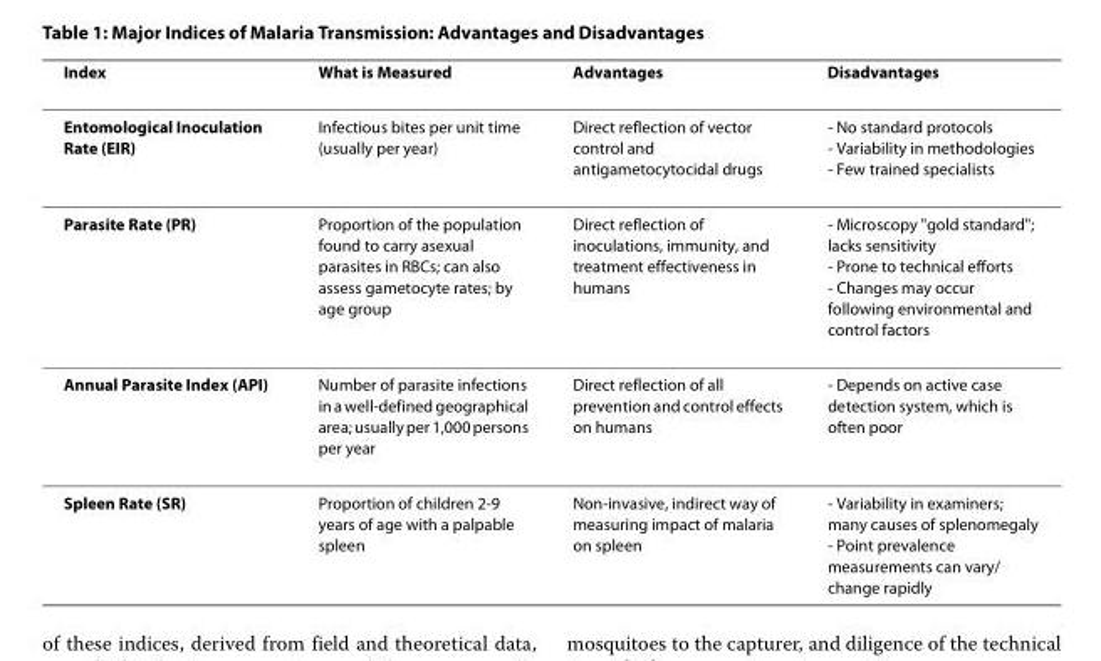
<table><thead><tr><td>Index</td><td>What is Measured</td><td>Advantages</td><td>Disadvantages</td></tr></thead><tbody><tr><td>Entomological Inoculation Rate (EIR)</td><td>Infectious bites per unit time (usually per year)</td><td>Direct reflection of vector control and antigametocytocidal drugs</td><td>- No standard protocols - Variability in methodologies - Few trained specialists</td></tr><tr><td>Parasite Rate (PR)</td><td>Proportion of the population found to carry asexual parasites in RBCs; can also assess gametocyte rates; by age group</td><td>Direct reflection of inoculations, immunity, and treatment effectiveness in humans</td><td>- Microscopy &quot;gold standard&quot;; lacks sensitivity - Prone to technical efforts - Changes may occur following environmental and control factors</td></tr><tr><td>Annual Parasite Index (API)</td><td>Number of parasite infections in a well-defined geographical area; usually per 1,000 persons per year</td><td>Direct reflection of all prevention and control effects on humans</td><td>- Depends on active case detection system, which is often poor</td></tr><tr><td>Spleen Rate (SR)</td><td>Proportion of children 2-9 years of age with a palpable spleen</td><td>Non-invasive, indirect way of measuring impact of malaria on spleen</td><td>- Variability in examiners; many causes of splenomegaly - Point prevalence measurements can vary/ change rapidly</td></tr></tbody></table>